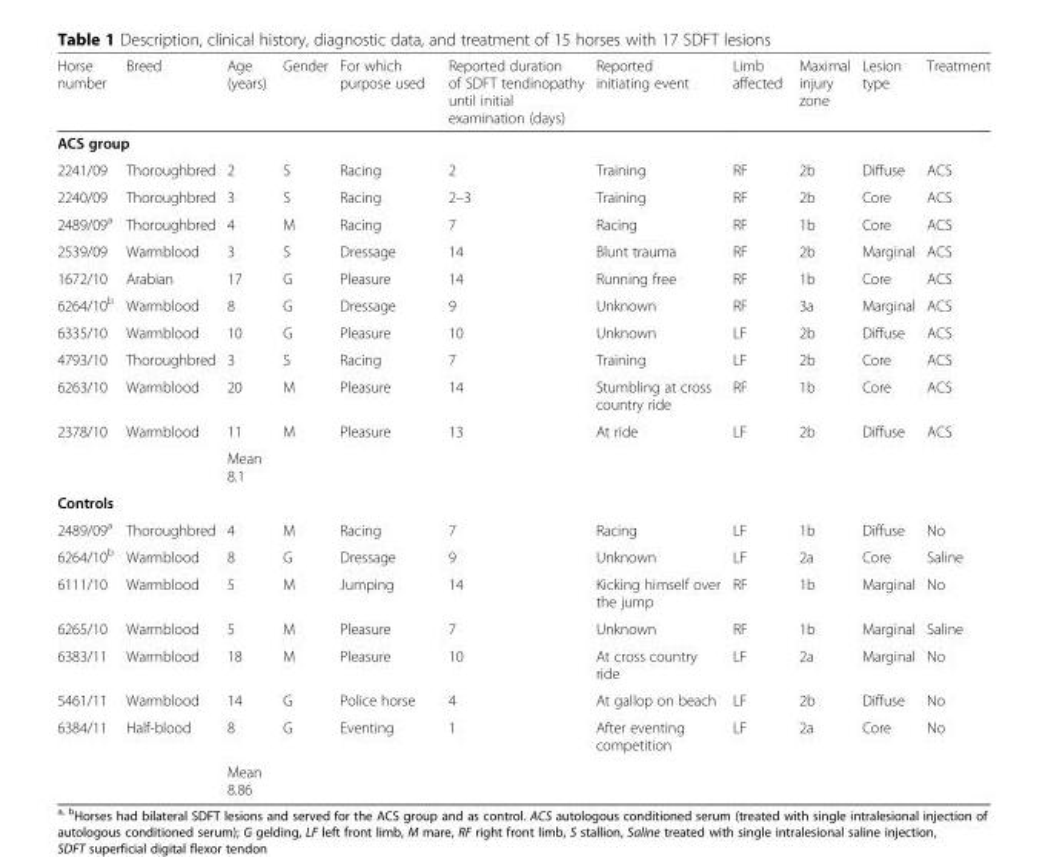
<table><thead><tr><td>Horse number</td><td>Breed</td><td>Age (years)</td><td>Gender</td><td>For which purpose used</td><td>Reported duration of SDFT tendinopathy until initial examination (days)</td><td>Reported initiating event</td><td>Limb affected</td><td>Maximal injury zone</td><td>Lesion type</td><td>Treatment</td></tr></thead><tbody><tr><td colspan="11">ACS group</td></tr><tr><td>2241/09</td><td>Thoroughbred</td><td>2</td><td>S</td><td>Racing</td><td>2</td><td>Training</td><td>RF</td><td>2b</td><td>Diffuse</td><td>ACS</td></tr><tr><td>2240/09</td><td>Thoroughbred</td><td>3</td><td>S</td><td>Racing</td><td>2–3</td><td>Training</td><td>RF</td><td>2b</td><td>Core</td><td>ACS</td></tr><tr><td>2489/09<sup>a</sup></td><td>Thoroughbred</td><td>4</td><td>M</td><td>Racing</td><td>7</td><td>Racing</td><td>RF</td><td>1b</td><td>Core</td><td>ACS</td></tr><tr><td>2539/09</td><td>Warmblood</td><td>3</td><td>S</td><td>Dressage</td><td>14</td><td>Blunt trauma</td><td>RF</td><td>2b</td><td>Marginal</td><td>ACS</td></tr><tr><td>1672/10</td><td>Arabian</td><td>17</td><td>G</td><td>Pleasure</td><td>14</td><td>Running free</td><td>RF</td><td>1b</td><td>Core</td><td>ACS</td></tr><tr><td>6264/10<sup>b</sup></td><td>Warmblood</td><td>8</td><td>G</td><td>Dressage</td><td>9</td><td>Unknown</td><td>RF</td><td>3a</td><td>Marginal</td><td>ACS</td></tr><tr><td>6335/10</td><td>Warmblood</td><td>10</td><td>G</td><td>Pleasure</td><td>10</td><td>Unknown</td><td>LF</td><td>2b</td><td>Diffuse</td><td>ACS</td></tr><tr><td>4793/10</td><td>Thoroughbred</td><td>3</td><td>S</td><td>Racing</td><td>7</td><td>Training</td><td>LF</td><td>2b</td><td>Core</td><td>ACS</td></tr><tr><td>6263/10</td><td>Warmblood</td><td>20</td><td>M</td><td>Pleasure</td><td>14</td><td>Stumbling at cross country ride</td><td>RF</td><td>1b</td><td>Core</td><td>ACS</td></tr><tr><td rowspan="2">2378/10</td><td>Warmblood</td><td>11</td><td>M</td><td>Pleasure</td><td>13</td><td>At ride</td><td>LF</td><td>2b</td><td>Diffuse</td><td>ACS</td></tr><tr><td></td><td>Mean 8.1</td><td></td><td></td><td></td><td></td><td></td><td></td><td></td><td></td></tr><tr><td colspan="11">Controls</td></tr><tr><td>2489/09<sup>a</sup></td><td>Thoroughbred</td><td>4</td><td>M</td><td>Racing</td><td>7</td><td>Racing</td><td>LF</td><td>1b</td><td>Diffuse</td><td>No</td></tr><tr><td>6264/10<sup>b</sup></td><td>Warmblood</td><td>8</td><td>G</td><td>Dressage</td><td>9</td><td>Unknown</td><td>LF</td><td>2a</td><td>Core</td><td>Saline</td></tr><tr><td>6111/10</td><td>Warmblood</td><td>5</td><td>M</td><td>Jumping</td><td>14</td><td>Kicking himself over the jump</td><td>RF</td><td>1b</td><td>Marginal</td><td>No</td></tr><tr><td>6265/10</td><td>Warmblood</td><td>5</td><td>M</td><td>Pleasure</td><td>7</td><td>Unknown</td><td>RF</td><td>1b</td><td>Marginal</td><td>Saline</td></tr><tr><td>6383/11</td><td>Warmblood</td><td>18</td><td>M</td><td>Pleasure</td><td>10</td><td>At cross country ride</td><td>LF</td><td>2a</td><td>Marginal</td><td>No</td></tr><tr><td>5461/11</td><td>Warmblood</td><td>14</td><td>G</td><td>Police horse</td><td>4</td><td>At gallop on beach</td><td>LF</td><td>2b</td><td>Diffuse</td><td>No</td></tr><tr><td rowspan="2">6384/11</td><td>Half-blood</td><td>8</td><td>G</td><td>Eventing</td><td>1</td><td>After eventing competition</td><td>LF</td><td>2a</td><td>Core</td><td>No</td></tr><tr><td></td><td>Mean 8.86</td><td></td><td></td><td></td><td></td><td></td><td></td><td></td><td></td></tr></tbody></table>